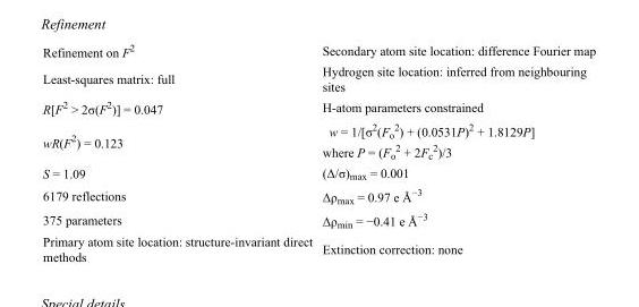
<table><tbody><tr><td>Refinement on F<sup>2</sup></td><td>Secondary atom site location: difference Fourier map</td></tr><tr><td>Least-squares matrix: full</td><td>Hydrogen site location: inferred from neighbouring sites</td></tr><tr><td>R[F<sup>2</sup> &gt; 2σ(F<sup>2</sup>)] = 0.047</td><td>H-atom parameters constrained</td></tr><tr><td>wR(F<sup>2</sup>) = 0.123</td><td>w = 1/[σ<sup>2</sup>(F<sub>o</sub> <sup>2</sup>) + (0.0531P)<sup>2</sup> + 1.8129P] where P = (F<sub>o</sub> <sup>2</sup> + 2F<sub>c</sub> <sup>2</sup>)/3</td></tr><tr><td>S = 1.09</td><td>(Δ/σ)<sub>max</sub> = 0.001</td></tr><tr><td>6179 reflections</td><td>Δρ<sub>max</sub> = 0.97 e Å<sup>−3</sup></td></tr><tr><td>375 parameters</td><td>Δρ<sub>min</sub> = −0.41 e Å<sup>−3</sup></td></tr><tr><td>Primary atom site location: structure-invariant direct methods</td><td>Extinction correction: none</td></tr></tbody></table>